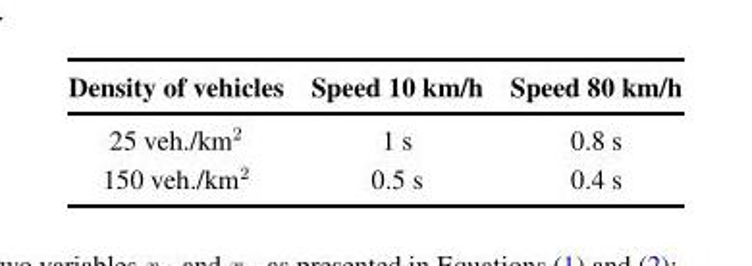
<table><thead><tr><td>Density of vehicles</td><td>Speed 10 km/h</td><td>Speed 80 km/h</td></tr></thead><tbody><tr><td>25 veh./km<sup>2</sup></td><td>1 s</td><td>0.8 s</td></tr><tr><td>150 veh./km<sup>2</sup></td><td>0.5 s</td><td>0.4 s</td></tr></tbody></table>